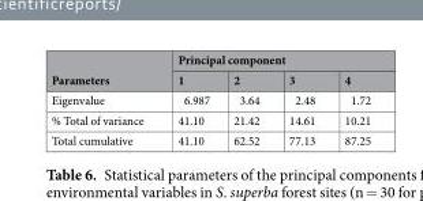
<table><thead><tr><td rowspan="2">Parameters</td><td colspan="4">Principal component</td></tr><tr><td>1</td><td>2</td><td>3</td><td>4</td></tr></thead><tbody><tr><td>Eigenvalue</td><td>6.987</td><td>3.64</td><td>2.48</td><td>1.72</td></tr><tr><td>% Total of variance</td><td>41.10</td><td>21.42</td><td>14.61</td><td>10.21</td></tr><tr><td>Total cumulative</td><td>41.10</td><td>62.52</td><td>77.13</td><td>87.25</td></tr></tbody></table>